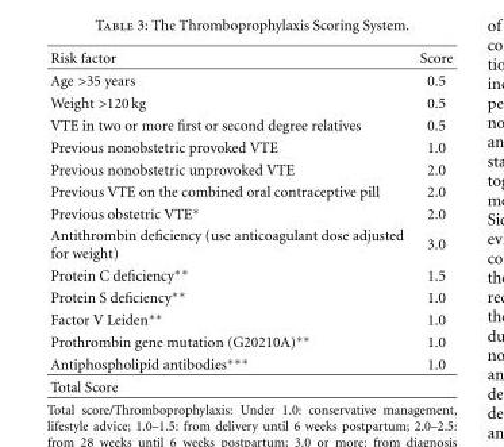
<table><thead><tr><td>Risk factor</td><td>Score</td></tr></thead><tbody><tr><td>Age &gt;35 years</td><td>0.5</td></tr><tr><td>Weight &gt;120 kg</td><td>0.5</td></tr><tr><td>VTE in two or more first or second degree relatives</td><td>0.5</td></tr><tr><td>Previous nonobstetric provoked VTE</td><td>1.0</td></tr><tr><td>Previous nonobstetric unprovoked VTE</td><td>2.0</td></tr><tr><td>Previous VTE on the combined oral contraceptive pill</td><td>2.0</td></tr><tr><td>Previous obstetric VTE∗</td><td>2.0</td></tr><tr><td>Antithrombin deficiency (use anticoagulant dose adjusted for weight)</td><td>3.0</td></tr><tr><td>Protein C deficiency∗∗</td><td>1.5</td></tr><tr><td>Protein S deficiency∗∗</td><td>1.0</td></tr><tr><td>Factor V Leiden∗∗</td><td>1.0</td></tr><tr><td>Prothrombin gene mutation (G20210A)∗∗</td><td>1.0</td></tr><tr><td>Antiphospholipid antibodies∗∗∗</td><td>1.0</td></tr><tr><td>Total Score</td><td></td></tr></tbody></table>